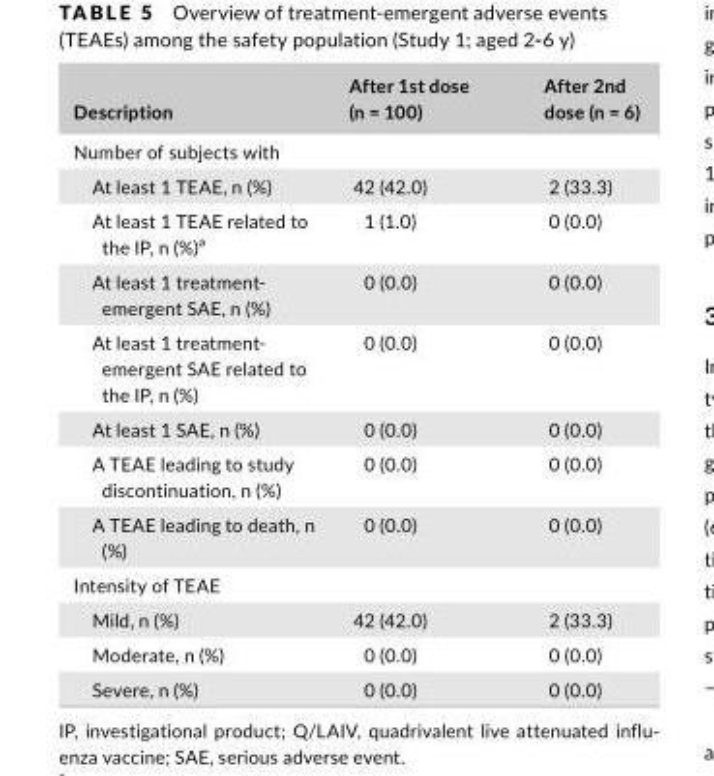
<table><thead><tr><td>Description</td><td>After 1st dose (n = 100)</td><td>After 2nd dose (n = 6)</td></tr></thead><tbody><tr><td colspan="3">Number of subjects with</td></tr><tr><td>At least 1 TEAE, n (%)</td><td>42 (42.0)</td><td>2 (33.3)</td></tr><tr><td>At least 1 TEAE related to the IP, n (%)<sup>a</sup></td><td>1 (1.0)</td><td>0 (0.0)</td></tr><tr><td>At least 1 treatment- emergent SAE, n (%)</td><td>0 (0.0)</td><td>0 (0.0)</td></tr><tr><td>At least 1 treatment- emergent SAE related to the IP, n (%)</td><td>0 (0.0)</td><td>0 (0.0)</td></tr><tr><td>At least 1 SAE, n (%)</td><td>0 (0.0)</td><td>0 (0.0)</td></tr><tr><td>A TEAE leading to study discontinuation, n (%)</td><td>0 (0.0)</td><td>0 (0.0)</td></tr><tr><td>A TEAE leading to death, n (%)</td><td>0 (0.0)</td><td>0 (0.0)</td></tr><tr><td colspan="3">Intensity of TEAE</td></tr><tr><td>Mild, n (%)</td><td>42 (42.0)</td><td>2 (33.3)</td></tr><tr><td>Moderate, n (%)</td><td>0 (0.0)</td><td>0 (0.0)</td></tr><tr><td>Severe, n (%)</td><td>0 (0.0)</td><td>0 (0.0)</td></tr></tbody></table>